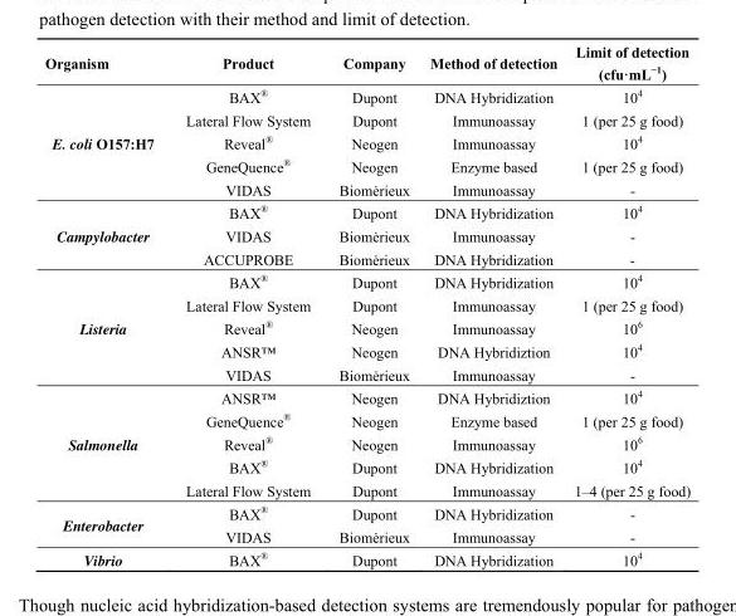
<table><thead><tr><td>Organism</td><td>Product</td><td>Company</td><td>Method of detection</td><td>Limit of detection (cfu·mL<sup>−1</sup>)</td></tr></thead><tbody><tr><td rowspan="5">E. coli O157:H7</td><td>BAX<sup>®</sup></td><td>Dupont</td><td>DNA Hybridization</td><td>10<sup>4</sup></td></tr><tr><td>Lateral Flow System</td><td>Dupont</td><td>Immunoassay</td><td>1 (per 25 g food)</td></tr><tr><td>Reveal<sup>®</sup></td><td>Neogen</td><td>Immunoassay</td><td>10<sup>4</sup></td></tr><tr><td>GeneQuence<sup>®</sup></td><td>Neogen</td><td>Enzyme based</td><td>1 (per 25 g food)</td></tr><tr><td>VIDAS</td><td>Biomėrieux</td><td>Immunoassay</td><td>-</td></tr><tr><td rowspan="3">Campylobacter</td><td>BAX<sup>®</sup></td><td>Dupont</td><td>DNA Hybridization</td><td>10<sup>4</sup></td></tr><tr><td>VIDAS</td><td>Biomėrieux</td><td>Immunoassay</td><td>-</td></tr><tr><td>ACCUPROBE</td><td>Biomėrieux</td><td>DNA Hybridization</td><td>-</td></tr><tr><td rowspan="5">Listeria</td><td>BAX<sup>®</sup></td><td>Dupont</td><td>DNA Hybridization</td><td>10<sup>4</sup></td></tr><tr><td>Lateral Flow System</td><td>Dupont</td><td>Immunoassay</td><td>1 (per 25 g food)</td></tr><tr><td>Reveal<sup>®</sup></td><td>Neogen</td><td>Immunoassay</td><td>10<sup>6</sup></td></tr><tr><td>ANSR™</td><td>Neogen</td><td>DNA Hybridiztion</td><td>10<sup>4</sup></td></tr><tr><td>VIDAS</td><td>Biomėrieux</td><td>Immunoassay</td><td>-</td></tr><tr><td rowspan="5">Salmonella</td><td>ANSR™</td><td>Neogen</td><td>DNA Hybridiztion</td><td>10<sup>4</sup></td></tr><tr><td>GeneQuence<sup>®</sup></td><td>Neogen</td><td>Enzyme based</td><td>1 (per 25 g food)</td></tr><tr><td>Reveal<sup>®</sup></td><td>Neogen</td><td>Immunoassay</td><td>10<sup>6</sup></td></tr><tr><td>BAX<sup>®</sup></td><td>Dupont</td><td>DNA Hybridization</td><td>10<sup>4</sup></td></tr><tr><td>Lateral Flow System</td><td>Dupont</td><td>Immunoassay</td><td>1–4 (per 25 g food)</td></tr><tr><td rowspan="2">Enterobacter</td><td>BAX<sup>®</sup></td><td>Dupont</td><td>DNA Hybridization</td><td>-</td></tr><tr><td>VIDAS</td><td>Biomėrieux</td><td>Immunoassay</td><td>-</td></tr><tr><td>Vibrio</td><td>BAX<sup>®</sup></td><td>Dupont</td><td>DNA Hybridization</td><td>10<sup>4</sup></td></tr></tbody></table>